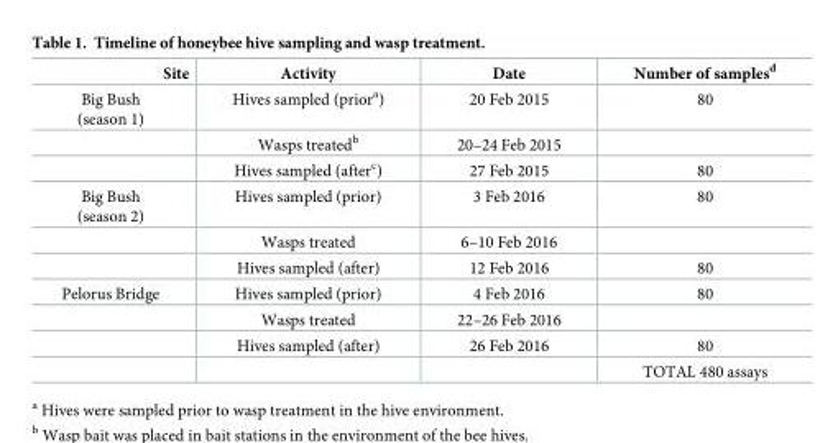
<table><thead><tr><td>Site</td><td>Activity</td><td>Date</td><td>Number of samples<sup>d</sup></td></tr></thead><tbody><tr><td rowspan="3">Big Bush (season 1)</td><td>Hives sampled (prior<sup>a</sup>)</td><td>20 Feb 2015</td><td>80</td></tr><tr><td>Wasps treated<sup>b</sup></td><td>20–24 Feb 2015</td><td></td></tr><tr><td>Hives sampled (after<sup>c</sup>)</td><td>27 Feb 2015</td><td>80</td></tr><tr><td rowspan="3">Big Bush (season 2)</td><td>Hives sampled (prior)</td><td>3 Feb 2016</td><td>80</td></tr><tr><td>Wasps treated</td><td>6–10 Feb 2016</td><td></td></tr><tr><td>Hives sampled (after)</td><td>12 Feb 2016</td><td>80</td></tr><tr><td rowspan="4">Pelorus Bridge</td><td>Hives sampled (prior)</td><td>4 Feb 2016</td><td>80</td></tr><tr><td>Wasps treated</td><td>22–26 Feb 2016</td><td></td></tr><tr><td>Hives sampled (after)</td><td>26 Feb 2016</td><td>80</td></tr><tr><td></td><td></td><td>TOTAL 480 assays</td></tr></tbody></table>